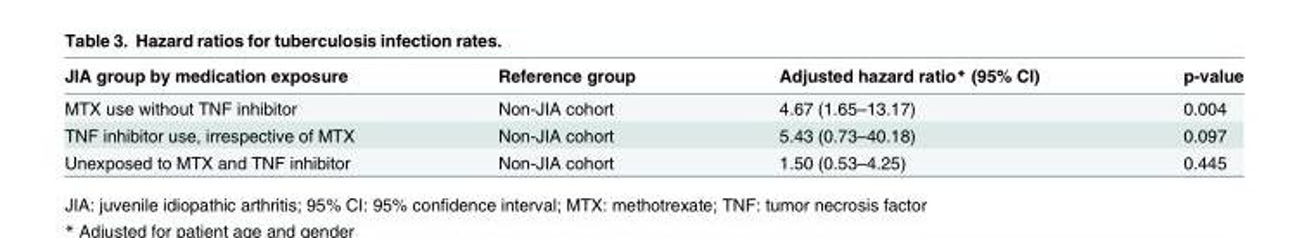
<table><thead><tr><td>JIA group by medication exposure</td><td>Reference group</td><td>Adjusted hazard ratio* (95% CI)</td><td>p-value</td></tr></thead><tbody><tr><td>MTX use without TNF inhibitor</td><td>Non-JIA cohort</td><td>4.67 (1.65–13.17)</td><td>0.004</td></tr><tr><td>TNF inhibitor use, irrespective of MTX</td><td>Non-JIA cohort</td><td>5.43 (0.73–40.18)</td><td>0.097</td></tr><tr><td>Unexposed to MTX and TNF inhibitor</td><td>Non-JIA cohort</td><td>1.50 (0.53–4.25)</td><td>0.445</td></tr></tbody></table>